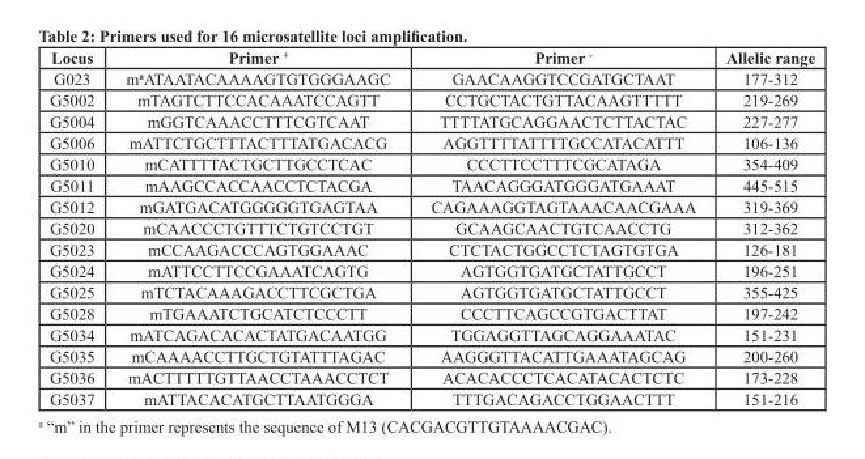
<table><thead><tr><td>Locus</td><td>Primer <sup>+</sup></td><td>Primer <sup>-</sup></td><td>Allelic range</td></tr></thead><tbody><tr><td>G023</td><td>m<sup>a</sup>ATAATACAAAAGTGTGGGAAGC</td><td>GAACAAGGTCCGATGCTAAT</td><td>177-312</td></tr><tr><td>G5002</td><td>mTAGTCTTCCACAAATCCAGTT</td><td>CCTGCTACTGTTACAAGTTTTT</td><td>219-269</td></tr><tr><td>G5004</td><td>mGGTCAAACCTTTCGTCAAT</td><td>TTTTATGCAGGAACTCTTACTAC</td><td>227-277</td></tr><tr><td>G5006</td><td>mATTCTGCTTTACTTTATGACACG</td><td>AGGTTTTATTTTGCCATACATTT</td><td>106-136</td></tr><tr><td>G5010</td><td>mCATTTTACTGCTTGCCTCAC</td><td>CCCTTCCTTTCGCATAGA</td><td>354-409</td></tr><tr><td>G5011</td><td>mAAGCCACCAACCTCTACGA</td><td>TAACAGGGATGGGATGAAAT</td><td>445-515</td></tr><tr><td>G5012</td><td>mGATGACATGGGGGTGAGTAA</td><td>CAGAAAGGTAGTAAACAACGAAA</td><td>319-369</td></tr><tr><td>G5020</td><td>mCAACCCTGTTTCTGTCCTGT</td><td>GCAAGCAACTGTCAACCTG</td><td>312-362</td></tr><tr><td>G5023</td><td>mCCAAGACCCAGTGGAAAC</td><td>CTCTACTGGCCTCTAGTGTGA</td><td>126-181</td></tr><tr><td>G5024</td><td>mATTCCTTCCGAAATCAGTG</td><td>AGTGGTGATGCTATTGCCT</td><td>196-251</td></tr><tr><td>G5025</td><td>mTCTACAAAGACCTTCGCTGA</td><td>AGTGGTGATGCTATTGCCT</td><td>355-425</td></tr><tr><td>G5028</td><td>mTGAAATCTGCATCTCCCTT</td><td>CCCTTCAGCCGTGACTTAT</td><td>197-242</td></tr><tr><td>G5034</td><td>mATCAGACACACTATGACAATGG</td><td>TGGAGGTTAGCAGGAAATAC</td><td>151-231</td></tr><tr><td>G5035</td><td>mCAAAACCTTGCTGTATTTAGAC</td><td>AAGGGTTACATTGAAATAGCAG</td><td>200-260</td></tr><tr><td>G5036</td><td>mACTTTTTGTTAACCTAAACCTCT</td><td>ACACACCCTCACATACACTCTC</td><td>173-228</td></tr><tr><td>G5037</td><td>mATTACACATGCTTAATGGGA</td><td>TTTGACAGACCTGGAACTTT</td><td>151-216</td></tr></tbody></table>